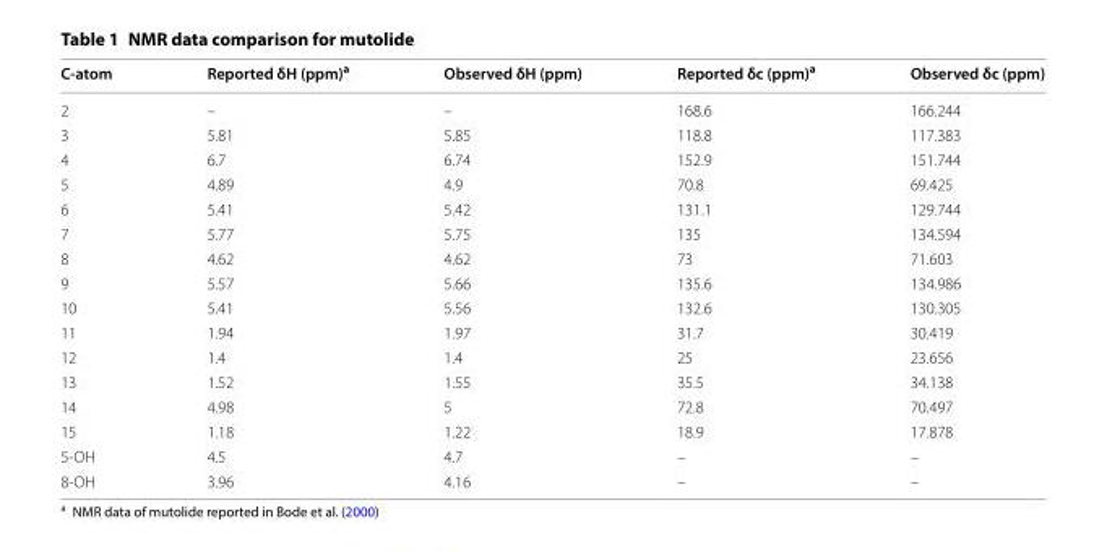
<table><thead><tr><td>C‑atom</td><td>Reported δH (ppm)<sup>a</sup></td><td>Observed δH (ppm)</td><td>Reported δc (ppm)<sup>a</sup></td><td>Observed δc (ppm)</td></tr></thead><tbody><tr><td>2</td><td>–</td><td>–</td><td>168.6</td><td>166.244</td></tr><tr><td>3</td><td>5.81</td><td>5.85</td><td>118.8</td><td>117.383</td></tr><tr><td>4</td><td>6.7</td><td>6.74</td><td>152.9</td><td>151.744</td></tr><tr><td>5</td><td>4.89</td><td>4.9</td><td>70.8</td><td>69.425</td></tr><tr><td>6</td><td>5.41</td><td>5.42</td><td>131.1</td><td>129.744</td></tr><tr><td>7</td><td>5.77</td><td>5.75</td><td>135</td><td>134.594</td></tr><tr><td>8</td><td>4.62</td><td>4.62</td><td>73</td><td>71.603</td></tr><tr><td>9</td><td>5.57</td><td>5.66</td><td>135.6</td><td>134.986</td></tr><tr><td>10</td><td>5.41</td><td>5.56</td><td>132.6</td><td>130.305</td></tr><tr><td>11</td><td>1.94</td><td>1.97</td><td>31.7</td><td>30.419</td></tr><tr><td>12</td><td>1.4</td><td>1.4</td><td>25</td><td>23.656</td></tr><tr><td>13</td><td>1.52</td><td>1.55</td><td>35.5</td><td>34.138</td></tr><tr><td>14</td><td>4.98</td><td>5</td><td>72.8</td><td>70.497</td></tr><tr><td>15</td><td>1.18</td><td>1.22</td><td>18.9</td><td>17.878</td></tr><tr><td>5‑OH</td><td>4.5</td><td>4.7</td><td>–</td><td>–</td></tr><tr><td>8‑OH</td><td>3.96</td><td>4.16</td><td>–</td><td>–</td></tr></tbody></table>